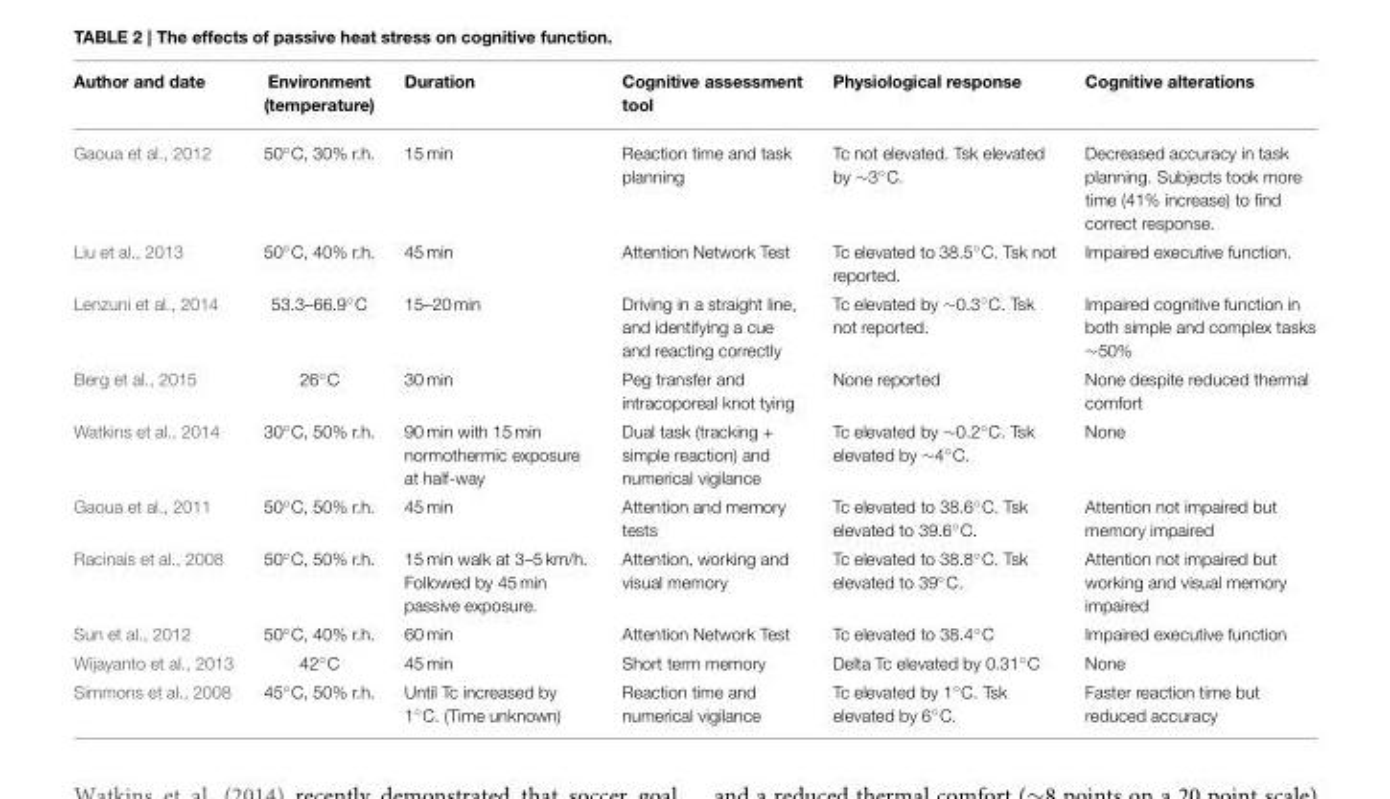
<table><thead><tr><td>Author and date</td><td>Environment (temperature)</td><td>Duration</td><td>Cognitive assessment tool</td><td>Physiological response</td><td>Cognitive alterations</td></tr></thead><tbody><tr><td>Gaoua et al., 2012</td><td>50◦C, 30% r.h.</td><td>15 min</td><td>Reaction time and task planning</td><td>Tc not elevated. Tsk elevated by ∼3◦C.</td><td>Decreased accuracy in task planning. Subjects took more time (41% increase) to find correct response.</td></tr><tr><td>Liu et al., 2013</td><td>50◦C, 40% r.h.</td><td>45 min</td><td>Attention Network Test</td><td>Tc elevated to 38.5◦C. Tsk not reported.</td><td>Impaired executive function.</td></tr><tr><td>Lenzuni et al., 2014</td><td>53.3–66.9◦C</td><td>15–20 min</td><td>Driving in a straight line, and identifying a cue and reacting correctly</td><td>Tc elevated by ∼0.3◦C. Tsk not reported.</td><td>Impaired cognitive function in both simple and complex tasks ∼50%</td></tr><tr><td>Berg et al., 2015</td><td>26◦C</td><td>30 min</td><td>Peg transfer and intracoporeal knot tying</td><td>None reported</td><td>None despite reduced thermal comfort</td></tr><tr><td>Watkins et al., 2014</td><td>30◦C, 50% r.h.</td><td>90 min with 15 min normothermic exposure at half-way</td><td>Dual task (tracking + simple reaction) and numerical vigilance</td><td>Tc elevated by ∼0.2◦C. Tsk elevated by ∼4◦C.</td><td>None</td></tr><tr><td>Gaoua et al., 2011</td><td>50◦C, 50% r.h.</td><td>45 min</td><td>Attention and memory tests</td><td>Tc elevated to 38.6◦C. Tsk elevated to 39.6◦C.</td><td>Attention not impaired but memory impaired</td></tr><tr><td>Racinais et al., 2008</td><td>50◦C, 50% r.h.</td><td>15 min walk at 3–5 km/h. Followed by 45 min passive exposure.</td><td>Attention, working and visual memory</td><td>Tc elevated to 38.8◦C. Tsk elevated to 39◦C.</td><td>Attention not impaired but working and visual memory impaired</td></tr><tr><td>Sun et al., 2012</td><td>50◦C, 40% r.h.</td><td>60 min</td><td>Attention Network Test</td><td>Tc elevated to 38.4◦C</td><td>Impaired executive function</td></tr><tr><td>Wijayanto et al., 2013</td><td>42◦C</td><td>45 min</td><td>Short term memory</td><td>Delta Tc elevated by 0.31◦C</td><td>None</td></tr><tr><td>Simmons et al., 2008</td><td>45◦C, 50% r.h.</td><td>Until Tc increased by 1◦C. (Time unknown)</td><td>Reaction time and numerical vigilance</td><td>Tc elevated by 1◦C. Tsk elevated by 6◦C.</td><td>Faster reaction time but reduced accuracy</td></tr></tbody></table>